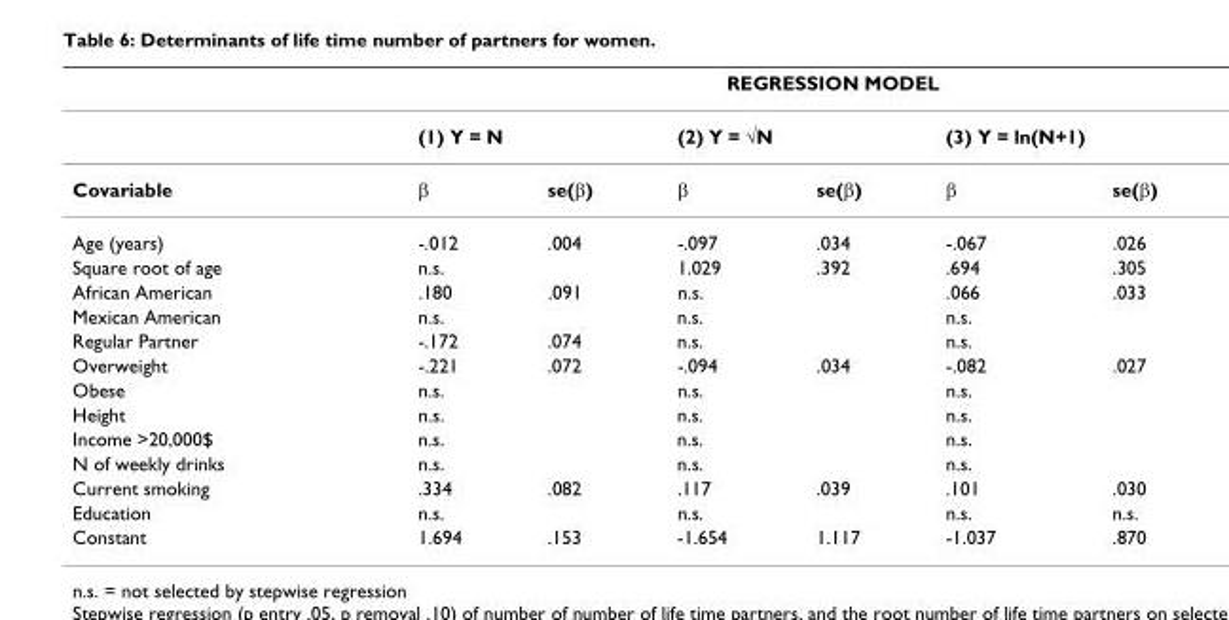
<table><thead><tr><td rowspan="3">Covariable</td><td colspan="6">REGRESSION MODEL</td></tr><tr><td colspan="2">(1) Y = N</td><td colspan="2">(2) Y = √N</td><td colspan="2">(3) Y = ln(N+1)</td></tr><tr><td>β</td><td>se(β)</td><td>β</td><td>se(β)</td><td>β</td><td>se(β)</td></tr></thead><tbody><tr><td>Age (years)</td><td>-.012</td><td>.004</td><td>-.097</td><td>.034</td><td>-.067</td><td>.026</td></tr><tr><td>Square root of age</td><td>n.s.</td><td></td><td>1.029</td><td>.392</td><td>.694</td><td>.305</td></tr><tr><td>African American</td><td>.180</td><td>.091</td><td>n.s.</td><td></td><td>.066</td><td>.033</td></tr><tr><td>Mexican American</td><td>n.s.</td><td></td><td>n.s.</td><td></td><td>n.s.</td><td></td></tr><tr><td>Regular Partner</td><td>-.172</td><td>.074</td><td>n.s.</td><td></td><td>n.s.</td><td></td></tr><tr><td>Overweight</td><td>-.221</td><td>.072</td><td>-.094</td><td>.034</td><td>-.082</td><td>.027</td></tr><tr><td>Obese</td><td>n.s.</td><td></td><td>n.s.</td><td></td><td>n.s.</td><td></td></tr><tr><td>Height</td><td>n.s.</td><td></td><td>n.s.</td><td></td><td>n.s.</td><td></td></tr><tr><td>Income &gt;20,000$</td><td>n.s.</td><td></td><td>n.s.</td><td></td><td>n.s.</td><td></td></tr><tr><td>N of weekly drinks</td><td>n.s.</td><td></td><td>n.s.</td><td></td><td>n.s.</td><td></td></tr><tr><td>Current smoking</td><td>.334</td><td>.082</td><td>.117</td><td>.039</td><td>.101</td><td>.030</td></tr><tr><td>Education</td><td>n.s.</td><td></td><td>n.s.</td><td></td><td>n.s.</td><td>n.s.</td></tr><tr><td>Constant</td><td>1.694</td><td>.153</td><td>-1.654</td><td>1.117</td><td>-1.037</td><td>.870</td></tr></tbody></table>